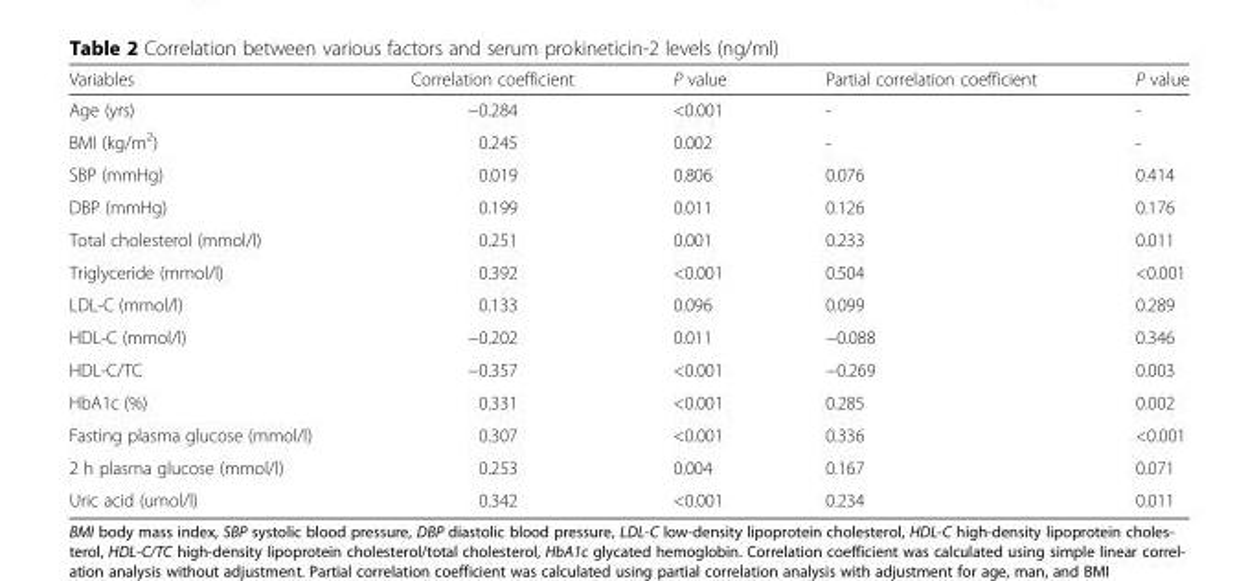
<table><thead><tr><td>Variables</td><td>Correlation coefficient</td><td>P value</td><td>Partial correlation coefficient</td><td>P value</td></tr></thead><tbody><tr><td>Age (yrs)</td><td>−0.284</td><td>&lt;0.001</td><td>-</td><td>-</td></tr><tr><td>BMI (kg/m<sup>2</sup>)</td><td>0.245</td><td>0.002</td><td>-</td><td>-</td></tr><tr><td>SBP (mmHg)</td><td>0.019</td><td>0.806</td><td>0.076</td><td>0.414</td></tr><tr><td>DBP (mmHg)</td><td>0.199</td><td>0.011</td><td>0.126</td><td>0.176</td></tr><tr><td>Total cholesterol (mmol/l)</td><td>0.251</td><td>0.001</td><td>0.233</td><td>0.011</td></tr><tr><td>Triglyceride (mmol/l)</td><td>0.392</td><td>&lt;0.001</td><td>0.504</td><td>&lt;0.001</td></tr><tr><td>LDL-C (mmol/l)</td><td>0.133</td><td>0.096</td><td>0.099</td><td>0.289</td></tr><tr><td>HDL-C (mmol/l)</td><td>−0.202</td><td>0.011</td><td>−0.088</td><td>0.346</td></tr><tr><td>HDL-C/TC</td><td>−0.357</td><td>&lt;0.001</td><td>−0.269</td><td>0.003</td></tr><tr><td>HbA1c (%)</td><td>0.331</td><td>&lt;0.001</td><td>0.285</td><td>0.002</td></tr><tr><td>Fasting plasma glucose (mmol/l)</td><td>0.307</td><td>&lt;0.001</td><td>0.336</td><td>&lt;0.001</td></tr><tr><td>2 h plasma glucose (mmol/l)</td><td>0.253</td><td>0.004</td><td>0.167</td><td>0.071</td></tr><tr><td>Uric acid (umol/l)</td><td>0.342</td><td>&lt;0.001</td><td>0.234</td><td>0.011</td></tr></tbody></table>